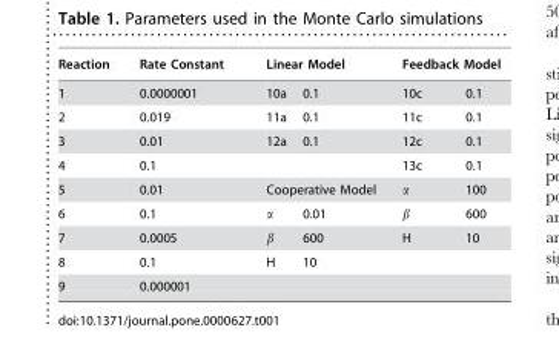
<table><thead><tr><td rowspan="2">Reaction 1</td><td rowspan="2">Rate Constant 0.0000001</td><td colspan="2">Linear Model</td><td colspan="2">Feedback Model</td></tr><tr><td>10a</td><td>0.1</td><td>10c</td><td>0.1</td></tr></thead><tbody><tr><td>2</td><td>0.019</td><td>11a</td><td>0.1</td><td>11c</td><td>0.1</td></tr><tr><td>3</td><td>0.01</td><td>12a</td><td>0.1</td><td>12c</td><td>0.1</td></tr><tr><td>4</td><td>0.1</td><td></td><td></td><td>13c</td><td>0.1</td></tr><tr><td>5</td><td>0.01</td><td colspan="2">Cooperative Model</td><td>α</td><td>100</td></tr><tr><td>6</td><td>0.1</td><td>α</td><td>0.01</td><td>β</td><td>600</td></tr><tr><td>7</td><td>0.0005</td><td>β</td><td>600</td><td>H</td><td>10</td></tr><tr><td>8</td><td>0.1</td><td>H</td><td>10</td><td></td><td></td></tr><tr><td>9</td><td>0.000001</td><td></td><td></td><td></td><td></td></tr></tbody></table>